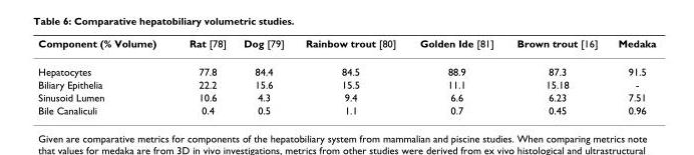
<table><thead><tr><td>Component (% Volume)</td><td>Rat [78]</td><td>Dog [79]</td><td>Rainbow trout [80]</td><td>Golden Ide [81]</td><td>Brown trout [16]</td><td>Medaka</td></tr></thead><tbody><tr><td>Hepatocytes</td><td>77.8</td><td>84.4</td><td>84.5</td><td>88.9</td><td>87.3</td><td>91.5</td></tr><tr><td>Biliary Epithelia</td><td>22.2</td><td>15.6</td><td>15.5</td><td>11.1</td><td>15.18</td><td>-</td></tr><tr><td>Sinusoid Lumen</td><td>10.6</td><td>4.3</td><td>9.4</td><td>6.6</td><td>6.23</td><td>7.51</td></tr><tr><td>Bile Canaliculi</td><td>0.4</td><td>0.5</td><td>1.1</td><td>0.7</td><td>0.45</td><td>0.96</td></tr></tbody></table>